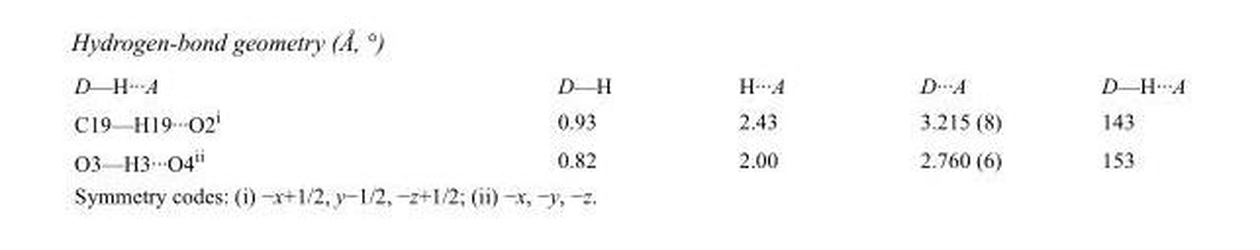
<table><tbody><tr><td>D—H···A</td><td>D—H</td><td>H···A</td><td>D···A</td><td>D—H···A</td></tr><tr><td>C19—H19···O2<sup>i</sup></td><td>0.93</td><td>2.43</td><td>3.215 (8)</td><td>143</td></tr><tr><td>O3—H3···O4<sup>ii</sup></td><td>0.82</td><td>2.00</td><td>2.760 (6)</td><td>153</td></tr></tbody></table>